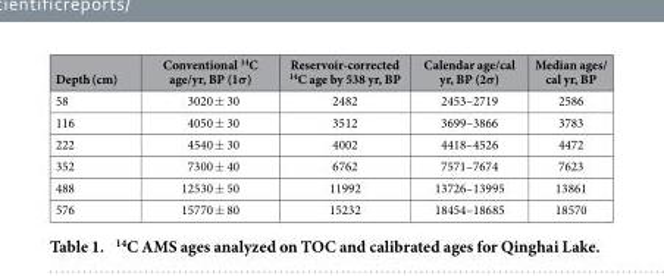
<table><thead><tr><td>Depth (cm)</td><td>Conventional <sup>14</sup>C age/yr, BP (1σ)</td><td>Reservoir-corrected <sup>14</sup>C age by 538 yr, BP</td><td>Calendar age/cal yr, BP (2σ)</td><td>Median ages/ cal yr, BP</td></tr></thead><tbody><tr><td>58</td><td>3020 ± 30</td><td>2482</td><td>2453–2719</td><td>2586</td></tr><tr><td>116</td><td>4050 ± 30</td><td>3512</td><td>3699–3866</td><td>3783</td></tr><tr><td>222</td><td>4540 ± 30</td><td>4002</td><td>4418–4526</td><td>4472</td></tr><tr><td>352</td><td>7300 ± 40</td><td>6762</td><td>7571–7674</td><td>7623</td></tr><tr><td>488</td><td>12530 ± 50</td><td>11992</td><td>13726–13995</td><td>13861</td></tr><tr><td>576</td><td>15770 ± 80</td><td>15232</td><td>18454–18685</td><td>18570</td></tr></tbody></table>